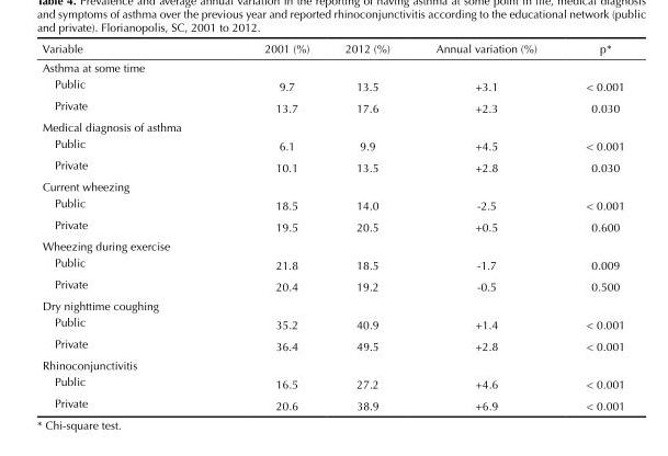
<table><thead><tr><td>Variable</td><td>2001 (%)</td><td>2012 (%)</td><td>Annual variation (%)</td><td>p*</td></tr></thead><tbody><tr><td colspan="5">Asthma at some time</td></tr><tr><td>Public</td><td>9.7</td><td>13.5</td><td>+3.1</td><td>&lt; 0.001</td></tr><tr><td>Private</td><td>13.7</td><td>17.6</td><td>+2.3</td><td>0.030</td></tr><tr><td colspan="5">Medical diagnosis of asthma</td></tr><tr><td>Public</td><td>6.1</td><td>9.9</td><td>+4.5</td><td>&lt; 0.001</td></tr><tr><td>Private</td><td>10.1</td><td>13.5</td><td>+2.8</td><td>0.030</td></tr><tr><td colspan="5">Current wheezing</td></tr><tr><td>Public</td><td>18.5</td><td>14.0</td><td>-2.5</td><td>&lt; 0.001</td></tr><tr><td>Private</td><td>19.5</td><td>20.5</td><td>+0.5</td><td>0.600</td></tr><tr><td colspan="5">Wheezing during exercise</td></tr><tr><td>Public</td><td>21.8</td><td>18.5</td><td>-1.7</td><td>0.009</td></tr><tr><td>Private</td><td>20.4</td><td>19.2</td><td>-0.5</td><td>0.500</td></tr><tr><td colspan="5">Dry nighttime coughing</td></tr><tr><td>Public</td><td>35.2</td><td>40.9</td><td>+1.4</td><td>&lt; 0.001</td></tr><tr><td>Private</td><td>36.4</td><td>49.5</td><td>+2.8</td><td>&lt; 0.001</td></tr><tr><td colspan="5">Rhinoconjunctivitis</td></tr><tr><td>Public</td><td>16.5</td><td>27.2</td><td>+4.6</td><td>&lt; 0.001</td></tr><tr><td>Private</td><td>20.6</td><td>38.9</td><td>+6.9</td><td>&lt; 0.001</td></tr></tbody></table>